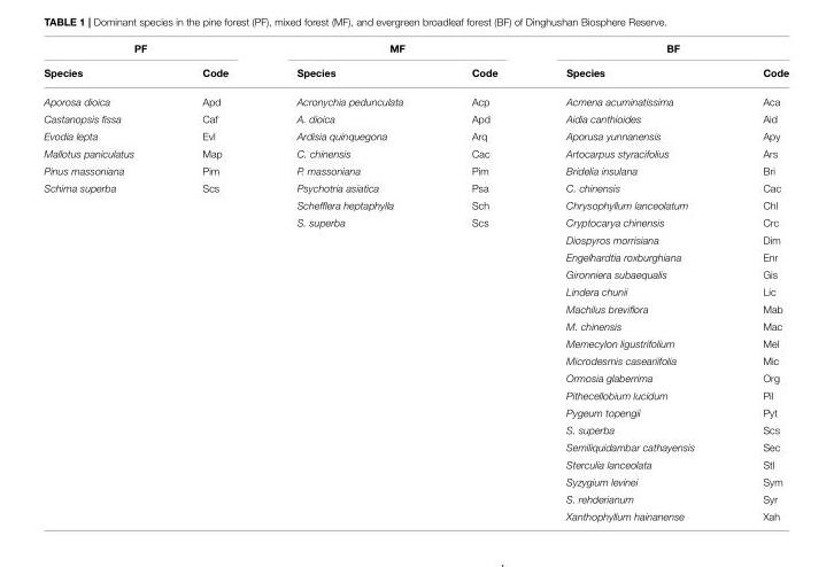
<table><thead><tr><td colspan="2">PF</td><td colspan="2">MF</td><td colspan="2">BF</td></tr><tr><td>Species</td><td>Code</td><td>Species</td><td>Code</td><td>Species</td><td>Code</td></tr></thead><tbody><tr><td>Aporosa dioica</td><td>Apd</td><td>Acronychia pedunculata</td><td>Acp</td><td>Acmena acuminatissima</td><td>Aca</td></tr><tr><td>Castanopsis fissa</td><td>Caf</td><td>A. dioica</td><td>Apd</td><td>Aidia canthioides</td><td>Aid</td></tr><tr><td>Evodia lepta</td><td>Evl</td><td>Ardisia quinquegona</td><td>Arq</td><td>Aporusa yunnanensis</td><td>Apy</td></tr><tr><td>Mallotus paniculatus</td><td>Map</td><td>C. chinensis</td><td>Cac</td><td>Artocarpus styracifolius</td><td>Ars</td></tr><tr><td>Pinus massoniana</td><td>Pim</td><td>P. massoniana</td><td>Pim</td><td>Bridelia insulana</td><td>Bri</td></tr><tr><td rowspan="20">Schima superba</td><td>Scs</td><td>Psychotria asiatica</td><td>Psa</td><td>C. chinensis</td><td>Cac</td></tr><tr><td></td><td>Schefflera heptaphylla</td><td>Sch</td><td>Chrysophyllum lanceolatum</td><td>Chl</td></tr><tr><td></td><td>S. superba</td><td>Scs</td><td>Cryptocarya chinensis</td><td>Crc</td></tr><tr><td></td><td></td><td></td><td>Diospyros morrisiana</td><td>Dim</td></tr><tr><td></td><td></td><td></td><td>Engelhardtia roxburghiana</td><td>Enr</td></tr><tr><td></td><td></td><td></td><td>Gironniera subaequalis</td><td>Gis</td></tr><tr><td></td><td></td><td></td><td>Lindera chunii</td><td>Lic</td></tr><tr><td></td><td></td><td></td><td>Machilus breviflora</td><td>Mab</td></tr><tr><td></td><td></td><td></td><td>M. chinensis</td><td>Mac</td></tr><tr><td></td><td></td><td></td><td>Memecylon ligustrifolium</td><td>Mel</td></tr><tr><td></td><td></td><td></td><td>Microdesmis caseariifolia</td><td>Mic</td></tr><tr><td></td><td></td><td></td><td>Ormosia glaberrima</td><td>Org</td></tr><tr><td></td><td></td><td></td><td>Pithecellobium lucidum</td><td>Pil</td></tr><tr><td></td><td></td><td></td><td>Pygeum topengii</td><td>Pyt</td></tr><tr><td></td><td></td><td></td><td>S. superba</td><td>Scs</td></tr><tr><td></td><td></td><td></td><td>Semiliquidambar cathayensis</td><td>Sec</td></tr><tr><td></td><td></td><td></td><td>Sterculia lanceolata</td><td>Stl</td></tr><tr><td></td><td></td><td></td><td>Syzygium levinei</td><td>Sym</td></tr><tr><td></td><td></td><td></td><td>S. rehderianum</td><td>Syr</td></tr><tr><td></td><td></td><td></td><td>Xanthophyllum hainanense</td><td>Xah</td></tr></tbody></table>